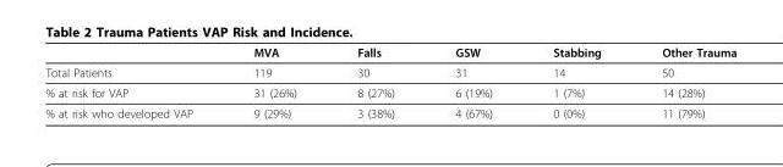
<table><thead><tr><td></td><td>MVA</td><td>Falls</td><td>GSW</td><td>Stabbing</td><td>Other Trauma</td></tr></thead><tbody><tr><td>Total Patients</td><td>119</td><td>30</td><td>31</td><td>14</td><td>50</td></tr><tr><td>% at risk for VAP</td><td>31 (26%)</td><td>8 (27%)</td><td>6 (19%)</td><td>1 (7%)</td><td>14 (28%)</td></tr><tr><td>% at risk who developed VAP</td><td>9 (29%)</td><td>3 (38%)</td><td>4 (67%)</td><td>0 (0%)</td><td>11 (79%)</td></tr></tbody></table>